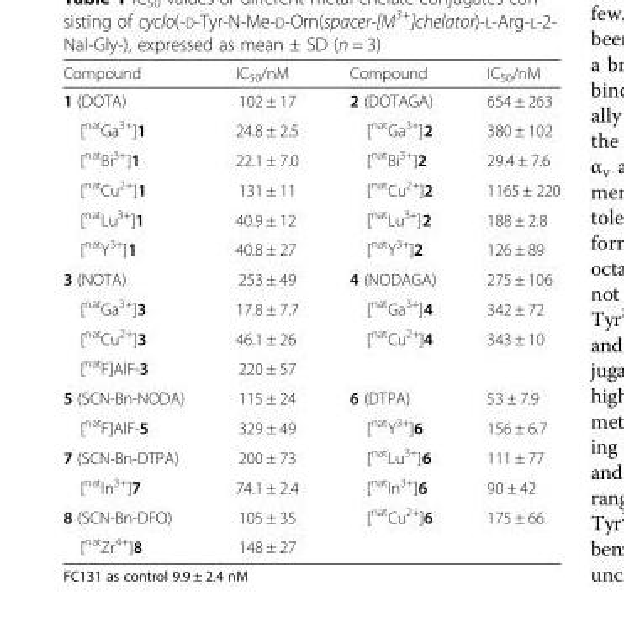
<table><thead><tr><td>Compound</td><td>IC<sub>50</sub>/nM</td><td>Compound</td><td>IC<sub>50</sub>/nM</td></tr></thead><tbody><tr><td>1 (DOTA)</td><td>102 ± 17</td><td>2 (DOTAGA)</td><td>654 ± 263</td></tr><tr><td>[<sup>nat</sup>Ga<sup>3+</sup>]1</td><td>24.8 ± 2.5</td><td>[<sup>nat</sup>Ga<sup>3+</sup>]2</td><td>380 ± 102</td></tr><tr><td>[<sup>nat</sup>Bi<sup>3+</sup>]1</td><td>22.1 ± 7.0</td><td>[<sup>nat</sup>Bi<sup>3+</sup>]2</td><td>29.4 ± 7.6</td></tr><tr><td>[<sup>nat</sup>Cu<sup>2+</sup>]1</td><td>131 ± 11</td><td>[<sup>nat</sup>Cu<sup>2+</sup>]2</td><td>1165 ± 220</td></tr><tr><td>[<sup>nat</sup>Lu<sup>3+</sup>]1</td><td>40.9 ± 12</td><td>[<sup>nat</sup>Lu<sup>3+</sup>]2</td><td>188 ± 2.8</td></tr><tr><td>[<sup>nat</sup>Y<sup>3+</sup>]1</td><td>40.8 ± 27</td><td>[<sup>nat</sup>Y<sup>3+</sup>]2</td><td>126 ± 89</td></tr><tr><td>3 (NOTA)</td><td>253 ± 49</td><td>4 (NODAGA)</td><td>275 ± 106</td></tr><tr><td>[<sup>nat</sup>Ga<sup>3+</sup>]3</td><td>17.8 ± 7.7</td><td>[<sup>nat</sup>Ga<sup>3+</sup>]4</td><td>342 ± 72</td></tr><tr><td>[<sup>nat</sup>Cu<sup>2+</sup>]3</td><td>46.1 ± 26</td><td>[<sup>nat</sup>Cu<sup>2+</sup>]4</td><td>343 ± 10</td></tr><tr><td>[<sup>nat</sup>F]AlF-3</td><td>220 ± 57</td><td></td><td></td></tr><tr><td>5 (SCN-Bn-NODA)</td><td>115 ± 24</td><td>6 (DTPA)</td><td>53 ± 7.9</td></tr><tr><td>[<sup>nat</sup>F]AlF-5</td><td>329 ± 49</td><td>[<sup>nat</sup>Y<sup>3+</sup>]6</td><td>156 ± 6.7</td></tr><tr><td>7 (SCN-Bn-DTPA)</td><td>200 ± 73</td><td>[<sup>nat</sup>Lu<sup>3+</sup>]6</td><td>111 ± 77</td></tr><tr><td>[<sup>nat</sup>In<sup>3+</sup>]7</td><td>74.1 ± 2.4</td><td>[<sup>nat</sup>In<sup>3+</sup>]6</td><td>90 ± 42</td></tr><tr><td>8 (SCN-Bn-DFO)</td><td>105 ± 35</td><td>[<sup>nat</sup>Cu<sup>2+</sup>]6</td><td>175 ± 66</td></tr><tr><td>[<sup>nat</sup>Zr<sup>4+</sup>]8</td><td>148 ± 27</td><td></td><td></td></tr></tbody></table>